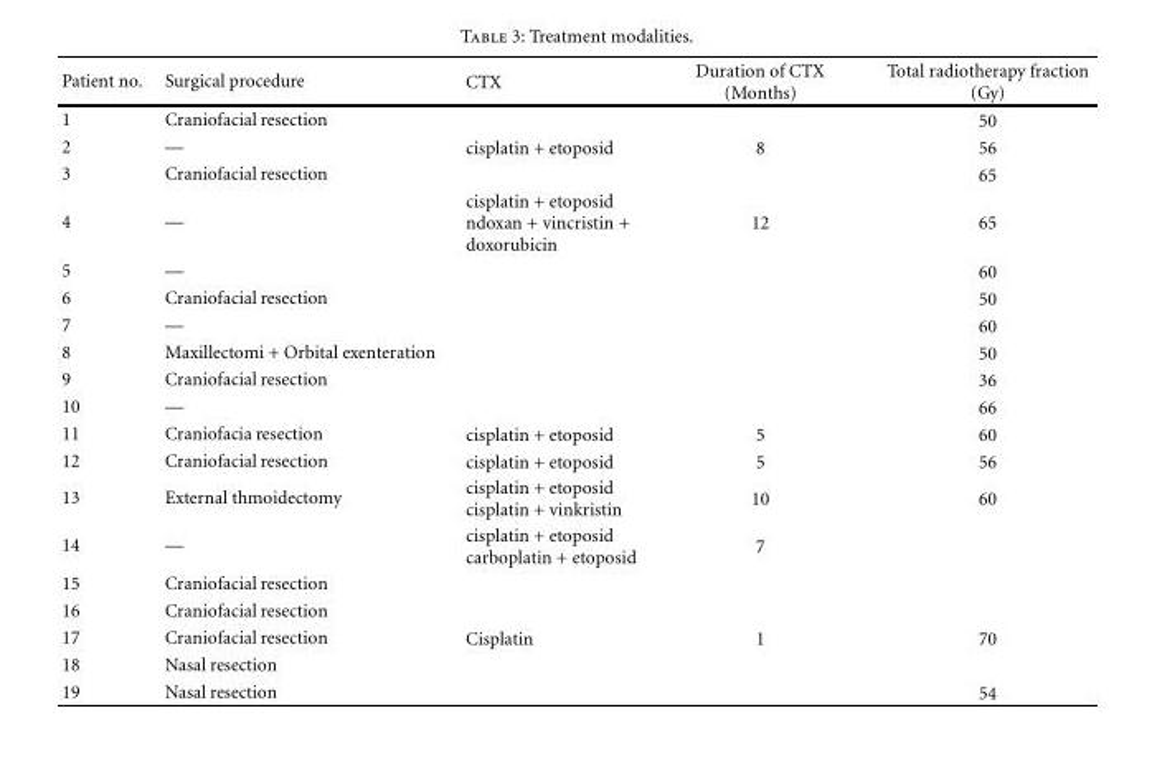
<table><thead><tr><td>Patient no.</td><td>Surgical procedure</td><td>CTX</td><td>Duration of CTX (Months)</td><td>Total radiotherapy fraction (Gy)</td></tr></thead><tbody><tr><td>1</td><td>Craniofacial resection</td><td></td><td></td><td>50</td></tr><tr><td>2</td><td>—</td><td>cisplatin + etoposid</td><td>8</td><td>56</td></tr><tr><td>3</td><td>Craniofacial resection</td><td></td><td></td><td>65</td></tr><tr><td>4</td><td>—</td><td>cisplatin + etoposid ndoxan + vincristin + doxorubicin</td><td>12</td><td>65</td></tr><tr><td>5</td><td>—</td><td></td><td></td><td>60</td></tr><tr><td>6</td><td>Craniofacial resection</td><td></td><td></td><td>50</td></tr><tr><td>7</td><td>—</td><td></td><td></td><td>60</td></tr><tr><td>8</td><td>Maxillectomi + Orbital exenteration</td><td></td><td></td><td>50</td></tr><tr><td>9</td><td>Craniofacial resection</td><td></td><td></td><td>36</td></tr><tr><td>10</td><td>—</td><td></td><td></td><td>66</td></tr><tr><td>11</td><td>Craniofacia resection</td><td>cisplatin + etoposid</td><td>5</td><td>60</td></tr><tr><td>12</td><td>Craniofacial resection</td><td>cisplatin + etoposid</td><td>5</td><td>56</td></tr><tr><td>13</td><td>External thmoidectomy</td><td>cisplatin + etoposid cisplatin + vinkristin</td><td>10</td><td>60</td></tr><tr><td>14</td><td>—</td><td>cisplatin + etoposid carboplatin + etoposid</td><td>7</td><td></td></tr><tr><td>15</td><td>Craniofacial resection</td><td></td><td></td><td></td></tr><tr><td>16</td><td>Craniofacial resection</td><td></td><td></td><td></td></tr><tr><td>17</td><td>Craniofacial resection</td><td>Cisplatin</td><td>1</td><td>70</td></tr><tr><td>18</td><td>Nasal resection</td><td></td><td></td><td></td></tr><tr><td>19</td><td>Nasal resection</td><td></td><td></td><td>54</td></tr></tbody></table>